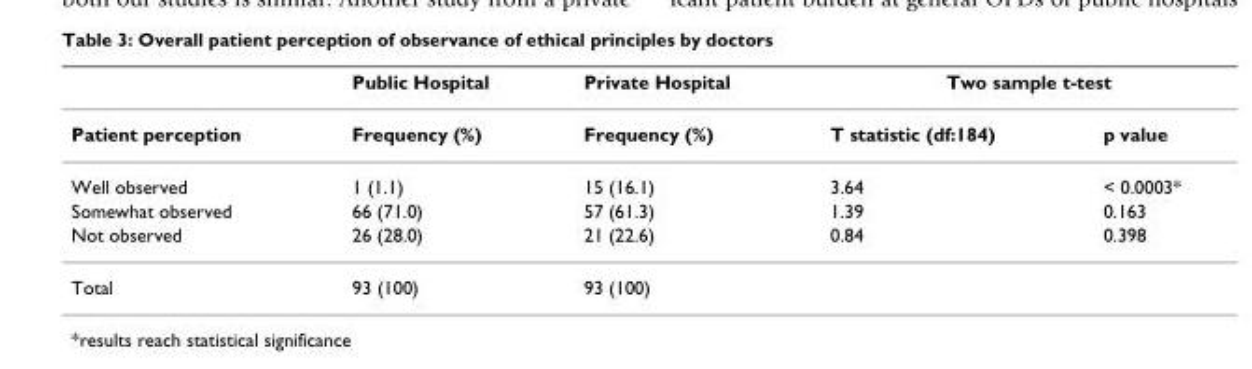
<table><thead><tr><td rowspan="2">Patient perception</td><td rowspan="2">Public Hospital Frequency (%)</td><td rowspan="2">Private Hospital Frequency (%)</td><td colspan="2">Two sample t-test</td></tr><tr><td>T statistic (df:184)</td><td>p value</td></tr></thead><tbody><tr><td>Well observed</td><td>1 (1.1)</td><td>15 (16.1)</td><td>3.64</td><td>&lt; 0.0003*</td></tr><tr><td>Somewhat observed</td><td>66 (71.0)</td><td>57 (61.3)</td><td>1.39</td><td>0.163</td></tr><tr><td>Not observed</td><td>26 (28.0)</td><td>21 (22.6)</td><td>0.84</td><td>0.398</td></tr><tr><td>Total</td><td>93 (100)</td><td>93 (100)</td><td></td><td></td></tr></tbody></table>